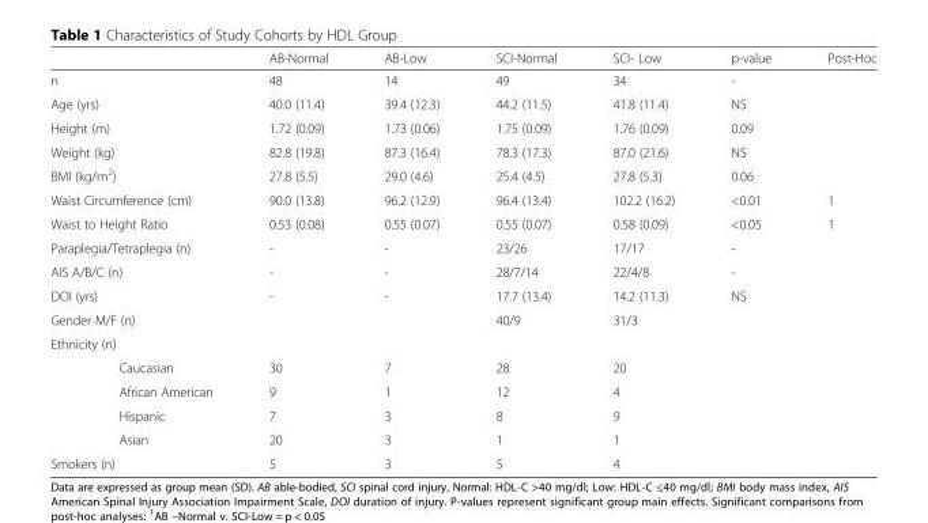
<table><thead><tr><td></td><td>AB-Normal</td><td>AB-Low</td><td>SCI-Normal</td><td>SCI- Low</td><td>p-value</td><td>Post-Hoc</td></tr></thead><tbody><tr><td>n</td><td>48</td><td>14</td><td>49</td><td>34</td><td>-</td><td></td></tr><tr><td>Age (yrs)</td><td>40.0 (11.4)</td><td>39.4 (12.3)</td><td>44.2 (11.5)</td><td>41.8 (11.4)</td><td>NS</td><td></td></tr><tr><td>Height (m)</td><td>1.72 (0.09)</td><td>1.73 (0.06)</td><td>1.75 (0.09)</td><td>1.76 (0.09)</td><td>0.09</td><td></td></tr><tr><td>Weight (kg)</td><td>82.8 (19.8)</td><td>87.3 (16.4)</td><td>78.3 (17.3)</td><td>87.0 (21.6)</td><td>NS</td><td></td></tr><tr><td>BMI (kg/m<sup>2</sup>)</td><td>27.8 (5.5)</td><td>29.0 (4.6)</td><td>25.4 (4.5)</td><td>27.8 (5.3)</td><td>0.06</td><td></td></tr><tr><td>Waist Circumference (cm)</td><td>90.0 (13.8)</td><td>96.2 (12.9)</td><td>96.4 (13.4)</td><td>102.2 (16.2)</td><td>&lt;0.01</td><td>1</td></tr><tr><td>Waist to Height Ratio</td><td>0.53 (0.08)</td><td>0.55 (0.07)</td><td>0.55 (0.07)</td><td>0.58 (0.09)</td><td>&lt;0.05</td><td>1</td></tr><tr><td>Paraplegia/Tetraplegia (n)</td><td>-</td><td>-</td><td>23/26</td><td>17/17</td><td>-</td><td></td></tr><tr><td>AIS A/B/C (n)</td><td>-</td><td>-</td><td>28/7/14</td><td>22/4/8</td><td>-</td><td></td></tr><tr><td>DOI (yrs)</td><td>-</td><td>-</td><td>17.7 (13.4)</td><td>14.2 (11.3)</td><td>NS</td><td></td></tr><tr><td>Gender M/F (n)</td><td></td><td></td><td>40/9</td><td>31/3</td><td></td><td></td></tr><tr><td colspan="7">Ethnicity (n)</td></tr><tr><td>Caucasian</td><td>30</td><td>7</td><td>28</td><td>20</td><td></td><td></td></tr><tr><td>African American</td><td>9</td><td>1</td><td>12</td><td>4</td><td></td><td></td></tr><tr><td>Hispanic</td><td>7</td><td>3</td><td>8</td><td>9</td><td></td><td></td></tr><tr><td>Asian</td><td>20</td><td>3</td><td>1</td><td>1</td><td></td><td></td></tr><tr><td>Smokers (n)</td><td>5</td><td>3</td><td>5</td><td>4</td><td></td><td></td></tr></tbody></table>